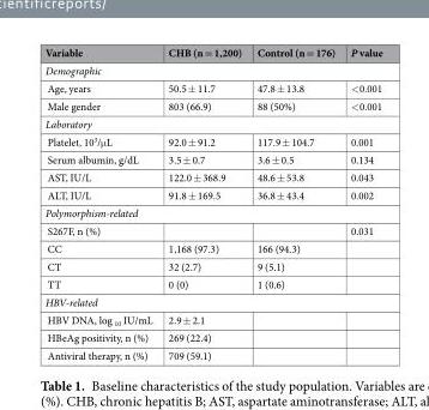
<table><thead><tr><td>Variable</td><td>CHB (n = 1,200)</td><td>Control (n = 176)</td><td>P value</td></tr></thead><tbody><tr><td colspan="4">Demographic</td></tr><tr><td>Age, years</td><td>50.5 ± 11.7</td><td>47.8 ± 13.8</td><td>&lt;0.001</td></tr><tr><td>Male gender</td><td>803 (66.9)</td><td>88 (50%)</td><td>&lt;0.001</td></tr><tr><td colspan="4">Laboratory</td></tr><tr><td>Platelet, 10<sup>3</sup>/μL</td><td>92.0 ± 91.2</td><td>117.9 ± 104.7</td><td>0.001</td></tr><tr><td>Serum albumin, g/dL</td><td>3.5 ± 0.7</td><td>3.6 ± 0.5</td><td>0.134</td></tr><tr><td>AST, IU/L</td><td>122.0 ± 368.9</td><td>48.6 ± 53.8</td><td>0.043</td></tr><tr><td>ALT, IU/L</td><td>91.8 ± 169.5</td><td>36.8 ± 43.4</td><td>0.002</td></tr><tr><td colspan="4">Polymorphism-related</td></tr><tr><td>S267F, n (%)</td><td></td><td></td><td>0.031</td></tr><tr><td>CC</td><td>1,168 (97.3)</td><td>166 (94.3)</td><td></td></tr><tr><td>CT</td><td>32 (2.7)</td><td>9 (5.1)</td><td></td></tr><tr><td>TT</td><td>0 (0)</td><td>1 (0.6)</td><td></td></tr><tr><td colspan="4">HBV-related</td></tr><tr><td>HBV DNA, log <sub>10</sub> IU/mL</td><td>2.9 ± 2.1</td><td></td><td></td></tr><tr><td>HBeAg positivity, n (%)</td><td>269 (22.4)</td><td></td><td></td></tr><tr><td>Antiviral therapy, n (%)</td><td>709 (59.1)</td><td></td><td></td></tr></tbody></table>